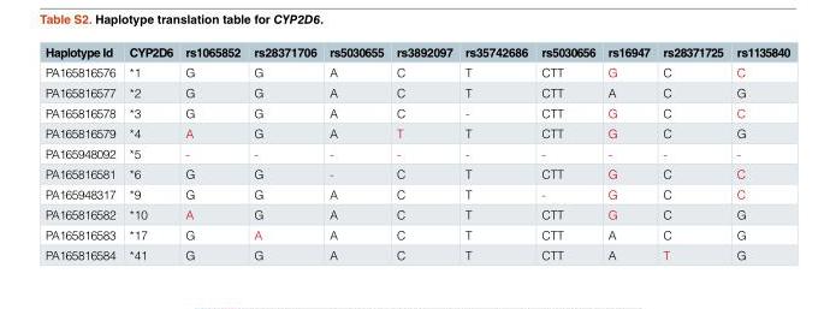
<table><thead><tr><td>Haplotype Id</td><td>CYP2D6</td><td>rs1065852</td><td>rs28371706</td><td>rs5030655</td><td>rs3892097</td><td>rs35742686</td><td>rs5030656</td><td>rs16947</td><td>rs28371725</td><td>rs1135840</td></tr></thead><tbody><tr><td>PA165816576</td><td>*1</td><td>G</td><td>G</td><td>A</td><td>C</td><td>T</td><td>CTT</td><td>G</td><td>C</td><td>C</td></tr><tr><td>PA165816577</td><td>*2</td><td>G</td><td>G</td><td>A</td><td>C</td><td>T</td><td>CTT</td><td>A</td><td>C</td><td>G</td></tr><tr><td>PA165816578</td><td>*3</td><td>G</td><td>G</td><td>A</td><td>C</td><td>-</td><td>CTT</td><td>G</td><td>C</td><td>C</td></tr><tr><td>PA165816579</td><td>*4</td><td>A</td><td>G</td><td>A</td><td>T</td><td>T</td><td>CTT</td><td>G</td><td>C</td><td>G</td></tr><tr><td>PA165948092</td><td>*5</td><td>-</td><td>-</td><td>-</td><td>-</td><td>-</td><td>-</td><td>-</td><td>-</td><td>-</td></tr><tr><td>PA165816581</td><td>*6</td><td>G</td><td>G</td><td>-</td><td>C</td><td>T</td><td>CTT</td><td>G</td><td>C</td><td>C</td></tr><tr><td>PA165948317</td><td>*9</td><td>G</td><td>G</td><td>A</td><td>C</td><td>T</td><td>-</td><td>G</td><td>C</td><td>C</td></tr><tr><td>PA165816582</td><td>*10</td><td>A</td><td>G</td><td>A</td><td>C</td><td>T</td><td>CTT</td><td>G</td><td>C</td><td>G</td></tr><tr><td>PA165816583</td><td>*17</td><td>G</td><td>A</td><td>A</td><td>C</td><td>T</td><td>CTT</td><td>A</td><td>C</td><td>G</td></tr><tr><td>PA165816584</td><td>*41</td><td>G</td><td>G</td><td>A</td><td>C</td><td>T</td><td>CTT</td><td>A</td><td>T</td><td>G</td></tr></tbody></table>